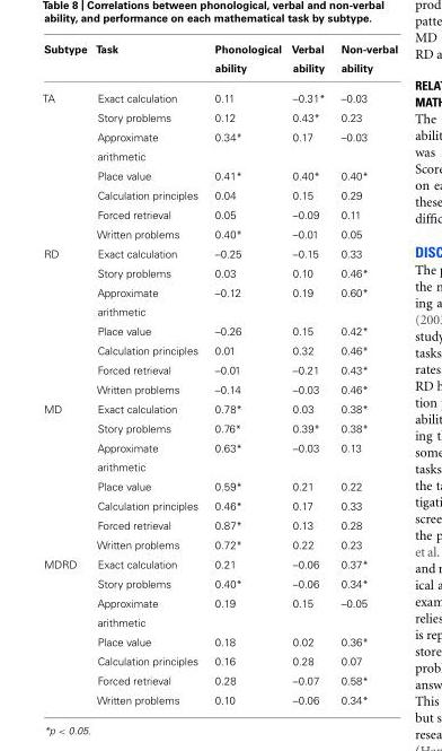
<table><thead><tr><td>Subtype</td><td>Task</td><td>Phonological ability</td><td>Verbal ability</td><td>Non-verbal ability</td></tr></thead><tbody><tr><td rowspan="7">TA</td><td>Exact calculation</td><td>0.11</td><td>–0.31*</td><td>–0.03</td></tr><tr><td>Story problems</td><td>0.12</td><td>0.43*</td><td>0.23</td></tr><tr><td>Approximate arithmetic</td><td>0.34*</td><td>0.17</td><td>–0.03</td></tr><tr><td>Place value</td><td>0.41*</td><td>0.40*</td><td>0.40*</td></tr><tr><td>Calculation principles</td><td>0.04</td><td>0.15</td><td>0.29</td></tr><tr><td>Forced retrieval</td><td>0.05</td><td>–0.09</td><td>0.11</td></tr><tr><td>Written problems</td><td>0.40*</td><td>–0.01</td><td>0.05</td></tr><tr><td rowspan="7">RD</td><td>Exact calculation</td><td>–0.25</td><td>–0.15</td><td>0.33</td></tr><tr><td>Story problems</td><td>0.03</td><td>0.10</td><td>0.46*</td></tr><tr><td>Approximate arithmetic</td><td>–0.12</td><td>0.19</td><td>0.60*</td></tr><tr><td>Place value</td><td>–0.26</td><td>0.15</td><td>0.42*</td></tr><tr><td>Calculation principles</td><td>0.01</td><td>0.32</td><td>0.46*</td></tr><tr><td>Forced retrieval</td><td>–0.01</td><td>–0.21</td><td>0.43*</td></tr><tr><td>Written problems</td><td>–0.14</td><td>–0.03</td><td>0.46*</td></tr><tr><td rowspan="7">MD</td><td>Exact calculation</td><td>0.78*</td><td>0.03</td><td>0.38*</td></tr><tr><td>Story problems</td><td>0.76*</td><td>0.39*</td><td>0.38*</td></tr><tr><td>Approximate arithmetic</td><td>0.63*</td><td>–0.03</td><td>0.13</td></tr><tr><td>Place value</td><td>0.59*</td><td>0.21</td><td>0.22</td></tr><tr><td>Calculation principles</td><td>0.46*</td><td>0.17</td><td>0.33</td></tr><tr><td>Forced retrieval</td><td>0.87*</td><td>0.13</td><td>0.28</td></tr><tr><td>Written problems</td><td>0.72*</td><td>0.22</td><td>0.23</td></tr><tr><td rowspan="7">MDRD</td><td>Exact calculation</td><td>0.21</td><td>–0.06</td><td>0.37*</td></tr><tr><td>Story problems</td><td>0.40*</td><td>–0.06</td><td>0.34*</td></tr><tr><td>Approximate arithmetic</td><td>0.19</td><td>0.15</td><td>–0.05</td></tr><tr><td>Place value</td><td>0.18</td><td>0.02</td><td>0.36*</td></tr><tr><td>Calculation principles</td><td>0.16</td><td>0.28</td><td>0.07</td></tr><tr><td>Forced retrieval</td><td>0.28</td><td>–0.07</td><td>0.58*</td></tr><tr><td>Written problems</td><td>0.10</td><td>–0.06</td><td>0.34*</td></tr></tbody></table>